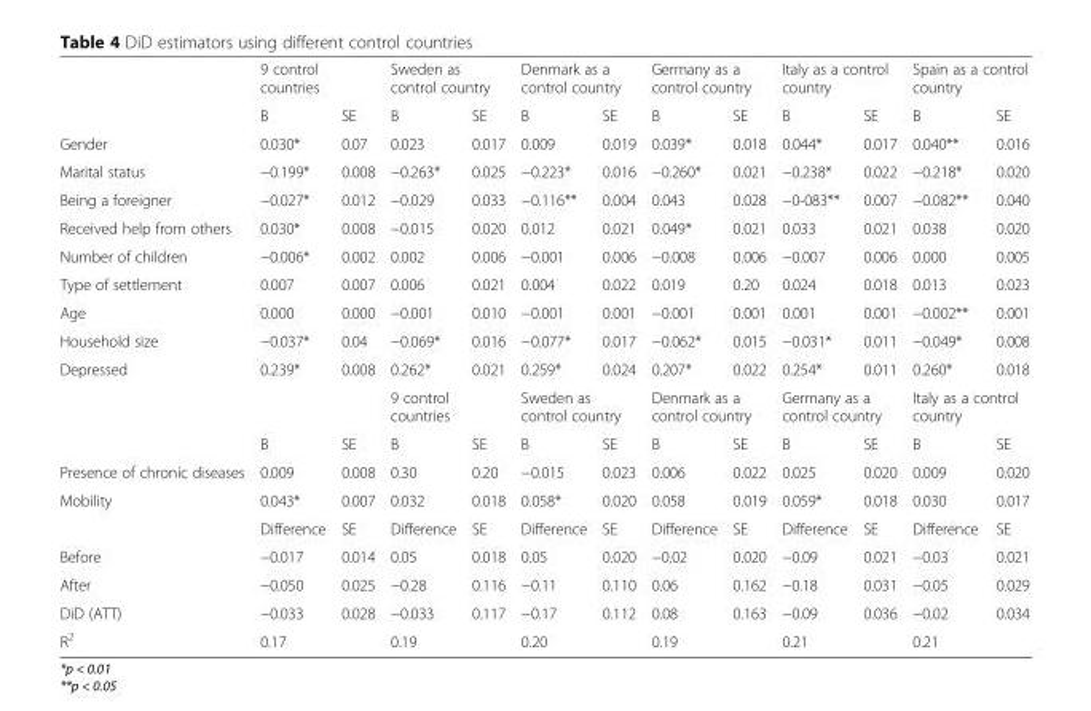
<table><thead><tr><td rowspan="2"></td><td colspan="2">9 control countries</td><td colspan="2">Sweden as control country</td><td colspan="2">Denmark as a control country</td><td colspan="2">Germany as a control country</td><td colspan="2">Italy as a control country</td><td colspan="2">Spain as a control country</td></tr><tr><td>B</td><td>SE</td><td>B</td><td>SE</td><td>B</td><td>SE</td><td>B</td><td>SE</td><td>B</td><td>SE</td><td>B</td><td>SE</td></tr></thead><tbody><tr><td>Gender</td><td>0.030*</td><td>0.07</td><td>0.023</td><td>0.017</td><td>0.009</td><td>0.019</td><td>0.039*</td><td>0.018</td><td>0.044*</td><td>0.017</td><td>0.040**</td><td>0.016</td></tr><tr><td>Marital status</td><td>−0.199*</td><td>0.008</td><td>−0.263*</td><td>0.025</td><td>−0.223*</td><td>0.016</td><td>−0.260*</td><td>0.021</td><td>−0.238*</td><td>0.022</td><td>−0.218*</td><td>0.020</td></tr><tr><td>Being a foreigner</td><td>−0.027*</td><td>0.012</td><td>−0.029</td><td>0.033</td><td>−0.116**</td><td>0.004</td><td>0.043</td><td>0.028</td><td>−0-083**</td><td>0.007</td><td>−0.082**</td><td>0.040</td></tr><tr><td>Received help from others</td><td>0.030*</td><td>0.008</td><td>−0.015</td><td>0.020</td><td>0.012</td><td>0.021</td><td>0.049*</td><td>0.021</td><td>0.033</td><td>0.021</td><td>0.038</td><td>0.020</td></tr><tr><td>Number of children</td><td>−0.006*</td><td>0.002</td><td>0.002</td><td>0.006</td><td>−0.001</td><td>0.006</td><td>−0.008</td><td>0.006</td><td>−0.007</td><td>0.006</td><td>0.000</td><td>0.005</td></tr><tr><td>Type of settlement</td><td>0.007</td><td>0.007</td><td>0.006</td><td>0.021</td><td>0.004</td><td>0.022</td><td>0.019</td><td>0.20</td><td>0.024</td><td>0.018</td><td>0.013</td><td>0.023</td></tr><tr><td>Age</td><td>0.000</td><td>0.000</td><td>−0.001</td><td>0.010</td><td>−0.001</td><td>0.001</td><td>−0.001</td><td>0.001</td><td>0.001</td><td>0.001</td><td>−0.002**</td><td>0.001</td></tr><tr><td>Household size</td><td>−0.037*</td><td>0.04</td><td>−0.069*</td><td>0.016</td><td>−0.077*</td><td>0.017</td><td>−0.062*</td><td>0.015</td><td>−0.031*</td><td>0.011</td><td>−0.049*</td><td>0.008</td></tr><tr><td rowspan="3">Depressed</td><td>0.239*</td><td>0.008</td><td>0.262*</td><td>0.021</td><td>0.259*</td><td>0.024</td><td>0.207*</td><td>0.022</td><td>0.254*</td><td>0.011</td><td>0.260*</td><td>0.018</td></tr><tr><td colspan="2"></td><td colspan="2">9 control countries</td><td colspan="2">Sweden as control country</td><td colspan="2">Denmark as a control country</td><td colspan="2">Germany as a control country</td><td colspan="2">Italy as a control country</td></tr><tr><td>B</td><td>SE</td><td>B</td><td>SE</td><td>B</td><td>SE</td><td>B</td><td>SE</td><td>B</td><td>SE</td><td>B</td><td>SE</td></tr><tr><td>Presence of chronic diseases</td><td>0.009</td><td>0.008</td><td>0.30</td><td>0.20</td><td>−0.015</td><td>0.023</td><td>0.006</td><td>0.022</td><td>0.025</td><td>0.020</td><td>0.009</td><td>0.020</td></tr><tr><td rowspan="2">Mobility</td><td>0.043*</td><td>0.007</td><td>0.032</td><td>0.018</td><td>0.058*</td><td>0.020</td><td>0.058</td><td>0.019</td><td>0.059*</td><td>0.018</td><td>0.030</td><td>0.017</td></tr><tr><td>Difference</td><td>SE</td><td>Difference</td><td>SE</td><td>Difference</td><td>SE</td><td>Difference</td><td>SE</td><td>Difference</td><td>SE</td><td>Difference</td><td>SE</td></tr><tr><td>Before</td><td>−0.017</td><td>0.014</td><td>0.05</td><td>0.018</td><td>0.05</td><td>0.020</td><td>−0.02</td><td>0.020</td><td>−0.09</td><td>0.021</td><td>−0.03</td><td>0.021</td></tr><tr><td>After</td><td>−0.050</td><td>0.025</td><td>−0.28</td><td>0.116</td><td>−0.11</td><td>0.110</td><td>0.06</td><td>0.162</td><td>−0.18</td><td>0.031</td><td>−0.05</td><td>0.029</td></tr><tr><td>DiD (ATT)</td><td>−0.033</td><td>0.028</td><td>−0.033</td><td>0.117</td><td>−0.17</td><td>0.112</td><td>0.08</td><td>0.163</td><td>−0.09</td><td>0.036</td><td>−0.02</td><td>0.034</td></tr><tr><td>R<sup>2</sup></td><td>0.17</td><td></td><td>0.19</td><td></td><td>0.20</td><td></td><td>0.19</td><td></td><td>0.21</td><td></td><td>0.21</td><td></td></tr></tbody></table>